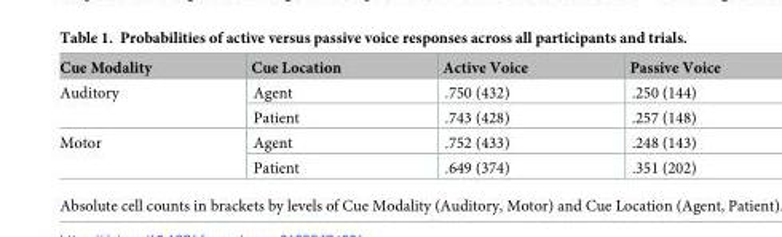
<table><thead><tr><td>Cue Modality</td><td>Cue Location</td><td>Active Voice</td><td>Passive Voice</td></tr></thead><tbody><tr><td rowspan="2">Auditory</td><td>Agent</td><td>.750 (432)</td><td>.250 (144)</td></tr><tr><td>Patient</td><td>.743 (428)</td><td>.257 (148)</td></tr><tr><td rowspan="2">Motor</td><td>Agent</td><td>.752 (433)</td><td>.248 (143)</td></tr><tr><td>Patient</td><td>.649 (374)</td><td>.351 (202)</td></tr></tbody></table>